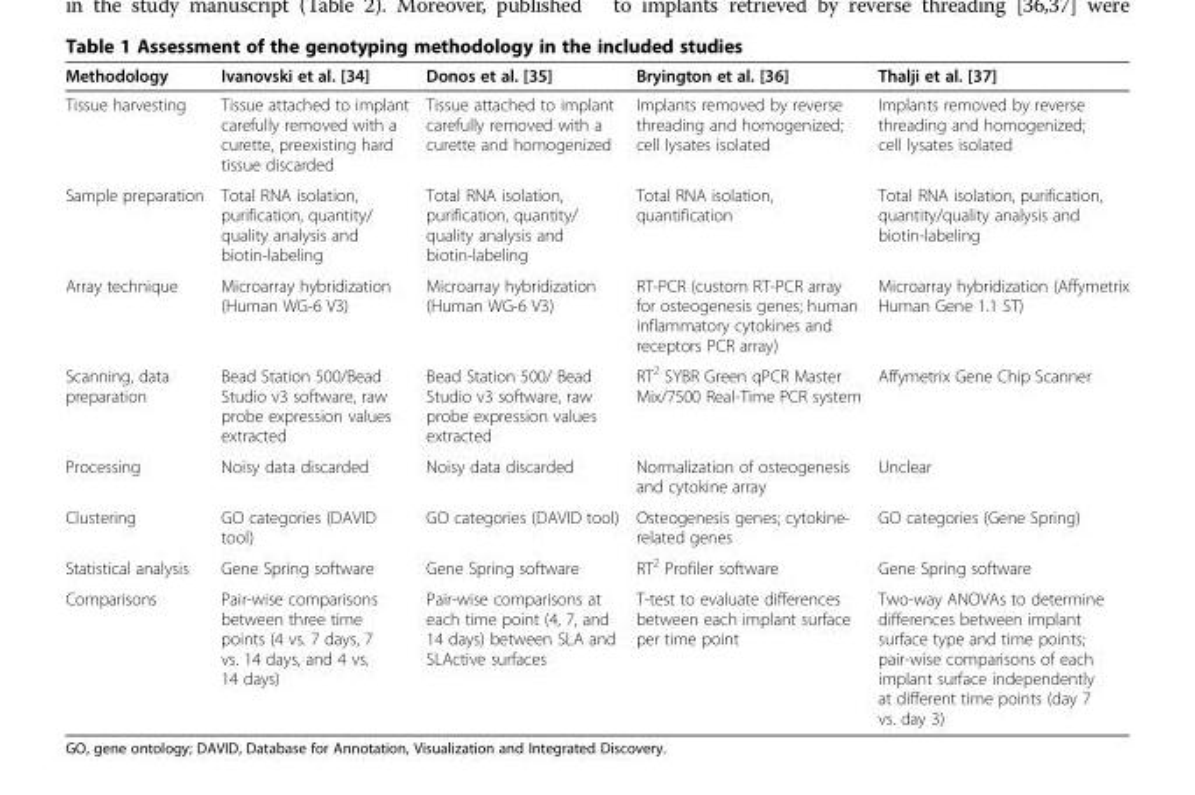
<table><thead><tr><td>Methodology</td><td>Ivanovski et al. [34]</td><td>Donos et al. [35]</td><td>Bryington et al. [36]</td><td>Thalji et al. [37]</td></tr></thead><tbody><tr><td>Tissue harvesting</td><td>Tissue attached to implant carefully removed with a curette, preexisting hard tissue discarded</td><td>Tissue attached to implant carefully removed with a curette and homogenized</td><td>Implants removed by reverse threading and homogenized; cell lysates isolated</td><td>Implants removed by reverse threading and homogenized; cell lysates isolated</td></tr><tr><td>Sample preparation</td><td>Total RNA isolation, purification, quantity/ quality analysis and biotin-labeling</td><td>Total RNA isolation, purification, quantity/ quality analysis and biotin-labeling</td><td>Total RNA isolation, quantification</td><td>Total RNA isolation, purification, quantity/quality analysis and biotin-labeling</td></tr><tr><td>Array technique</td><td>Microarray hybridization (Human WG-6 V3)</td><td>Microarray hybridization (Human WG-6 V3)</td><td>RT-PCR (custom RT-PCR array for osteogenesis genes; human inflammatory cytokines and receptors PCR array)</td><td>Microarray hybridization (Affymetrix Human Gene 1.1 ST)</td></tr><tr><td>Scanning, data preparation</td><td>Bead Station 500/Bead Studio v3 software, raw probe expression values extracted</td><td>Bead Station 500/ Bead Studio v3 software, raw probe expression values extracted</td><td>RT<sup>2</sup> SYBR Green qPCR Master Mix/7500 Real-Time PCR system</td><td>Affymetrix Gene Chip Scanner</td></tr><tr><td>Processing</td><td>Noisy data discarded</td><td>Noisy data discarded</td><td>Normalization of osteogenesis and cytokine array</td><td>Unclear</td></tr><tr><td>Clustering</td><td>GO categories (DAVID tool)</td><td>GO categories (DAVID tool)</td><td>Osteogenesis genes; cytokine- related genes</td><td>GO categories (Gene Spring)</td></tr><tr><td>Statistical analysis</td><td>Gene Spring software</td><td>Gene Spring software</td><td>RT<sup>2</sup> Profiler software</td><td>Gene Spring software</td></tr><tr><td>Comparisons</td><td>Pair-wise comparisons between three time points (4 vs. 7 days, 7 vs. 14 days, and 4 vs. 14 days)</td><td>Pair-wise comparisons at each time point (4, 7, and 14 days) between SLA and SLActive surfaces</td><td>T-test to evaluate differences between each implant surface per time point</td><td>Two-way ANOVAs to determine differences between implant surface type and time points; pair-wise comparisons of each implant surface independently at different time points (day 7 vs. day 3)</td></tr></tbody></table>